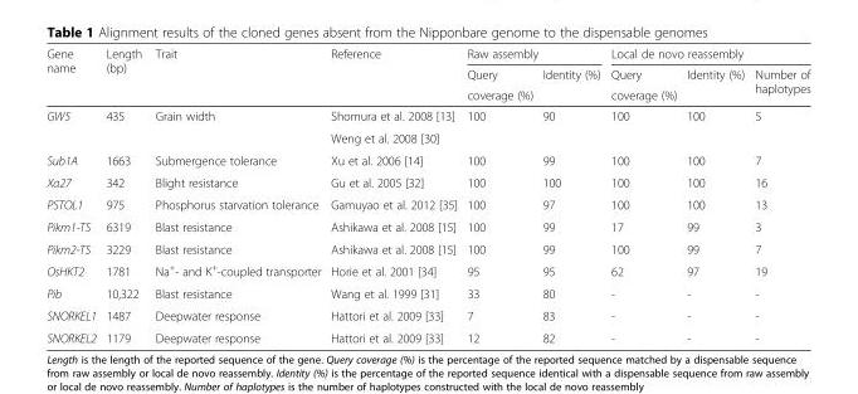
<table><thead><tr><td rowspan="3">Gene name</td><td rowspan="3">Length (bp)</td><td rowspan="3">Trait</td><td rowspan="3">Reference</td><td colspan="2">Raw assembly</td><td colspan="3">Local de novo reassembly</td></tr><tr><td rowspan="2">Query coverage (%)</td><td rowspan="2">Identity (%)</td><td rowspan="2">Query coverage (%)</td><td rowspan="2">Identity (%)</td><td rowspan="2">Number of haplotypes</td></tr><tr></tr></thead><tbody><tr><td rowspan="2">GW5</td><td rowspan="2">435</td><td rowspan="2">Grain width</td><td>Shomura et al. 2008 [13]</td><td rowspan="2">100</td><td rowspan="2">90</td><td rowspan="2">100</td><td rowspan="2">100</td><td rowspan="2">5</td></tr><tr><td>Weng et al. 2008 [30]</td></tr><tr><td>Sub1A</td><td>1663</td><td>Submergence tolerance</td><td>Xu et al. 2006 [14]</td><td>100</td><td>99</td><td>100</td><td>100</td><td>7</td></tr><tr><td>Xa27</td><td>342</td><td>Blight resistance</td><td>Gu et al. 2005 [32]</td><td>100</td><td>100</td><td>100</td><td>100</td><td>16</td></tr><tr><td>PSTOL1</td><td>975</td><td>Phosphorus starvation tolerance</td><td>Gamuyao et al. 2012 [35]</td><td>100</td><td>97</td><td>100</td><td>100</td><td>13</td></tr><tr><td>Pikm1-TS</td><td>6319</td><td>Blast resistance</td><td>Ashikawa et al. 2008 [15]</td><td>100</td><td>99</td><td>17</td><td>99</td><td>3</td></tr><tr><td>Pikm2-TS</td><td>3229</td><td>Blast resistance</td><td>Ashikawa et al. 2008 [15]</td><td>100</td><td>99</td><td>100</td><td>99</td><td>7</td></tr><tr><td>OsHKT2</td><td>1781</td><td>Na<sup>+</sup>- and K<sup>+</sup>-coupled transporter</td><td>Horie et al. 2001 [34]</td><td>95</td><td>95</td><td>62</td><td>97</td><td>19</td></tr><tr><td>Pib</td><td>10,322</td><td>Blast resistance</td><td>Wang et al. 1999 [31]</td><td>33</td><td>80</td><td>-</td><td>-</td><td>-</td></tr><tr><td>SNORKEL1</td><td>1487</td><td>Deepwater response</td><td>Hattori et al. 2009 [33]</td><td>7</td><td>83</td><td>-</td><td>-</td><td>-</td></tr><tr><td>SNORKEL2</td><td>1179</td><td>Deepwater response</td><td>Hattori et al. 2009 [33]</td><td>12</td><td>82</td><td>-</td><td>-</td><td>-</td></tr></tbody></table>